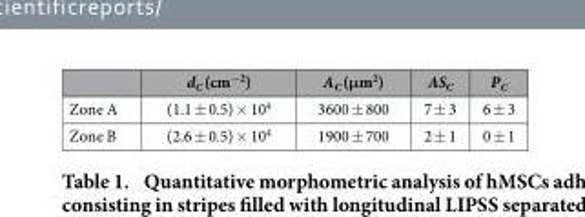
<table><thead><tr><td></td><td>d<sub>C</sub> (cm<sup>−2</sup>)</td><td>A<sub>C</sub> (μm<sup>2</sup>)</td><td>AS<sub>C</sub></td><td>P<sub>C</sub></td></tr></thead><tbody><tr><td>Zone A</td><td>(1.1 ± 0.5) × 10<sup>4</sup></td><td>3600 ± 800</td><td>7 ± 3</td><td>6 ± 3</td></tr><tr><td>Zone B</td><td>(2.6 ± 0.5) × 10<sup>4</sup></td><td>1900 ± 700</td><td>2 ± 1</td><td>0 ± 1</td></tr></tbody></table>